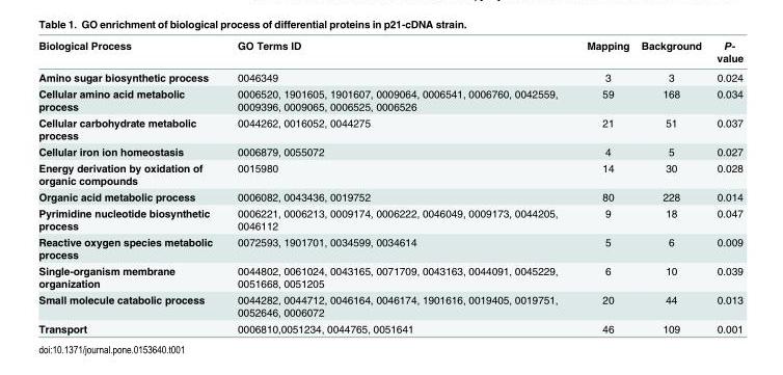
<table><thead><tr><td>Biological Process</td><td>GO Terms ID</td><td>Mapping</td><td>Background</td><td>P- value</td></tr></thead><tbody><tr><td>Amino sugar biosynthetic process</td><td>0046349</td><td>3</td><td>3</td><td>0.024</td></tr><tr><td>Cellular amino acid metabolic process</td><td>0006520, 1901605, 1901607, 0009064, 0006541, 0006760, 0042559, 0009396, 0009065, 0006525, 0006526</td><td>59</td><td>168</td><td>0.034</td></tr><tr><td>Cellular carbohydrate metabolic process</td><td>0044262, 0016052, 0044275</td><td>21</td><td>51</td><td>0.037</td></tr><tr><td>Cellular iron ion homeostasis</td><td>0006879, 0055072</td><td>4</td><td>5</td><td>0.027</td></tr><tr><td>Energy derivation by oxidation of organic compounds</td><td>0015980</td><td>14</td><td>30</td><td>0.028</td></tr><tr><td>Organic acid metabolic process</td><td>0006082, 0043436, 0019752</td><td>80</td><td>228</td><td>0.014</td></tr><tr><td>Pyrimidine nucleotide biosynthetic process</td><td>0006221, 0006213, 0009174, 0006222, 0046049, 0009173, 0044205, 0046112</td><td>9</td><td>18</td><td>0.047</td></tr><tr><td>Reactive oxygen species metabolic process</td><td>0072593, 1901701, 0034599, 0034614</td><td>5</td><td>6</td><td>0.009</td></tr><tr><td>Single-organism membrane organization</td><td>0044802, 0061024, 0043165, 0071709, 0043163, 0044091, 0045229, 0051668, 0051205</td><td>6</td><td>10</td><td>0.039</td></tr><tr><td>Small molecule catabolic process</td><td>0044282, 0044712, 0046164, 0046174, 1901616, 0019405, 0019751, 0052646, 0006072</td><td>20</td><td>44</td><td>0.013</td></tr><tr><td>Transport</td><td>0006810,0051234, 0044765, 0051641</td><td>46</td><td>109</td><td>0.001</td></tr></tbody></table>